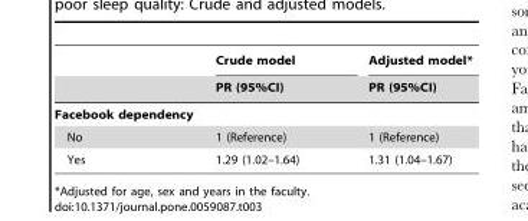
<table><thead><tr><td rowspan="2"></td><td rowspan="2">Crude model PR (95%CI)</td><td rowspan="2">Adjusted model* PR (95%CI)</td></tr><tr></tr></thead><tbody><tr><td colspan="3">Facebook dependency</td></tr><tr><td>No</td><td>1 (Reference)</td><td>1 (Reference)</td></tr><tr><td>Yes</td><td>1.29 (1.02–1.64)</td><td>1.31 (1.04–1.67)</td></tr></tbody></table>